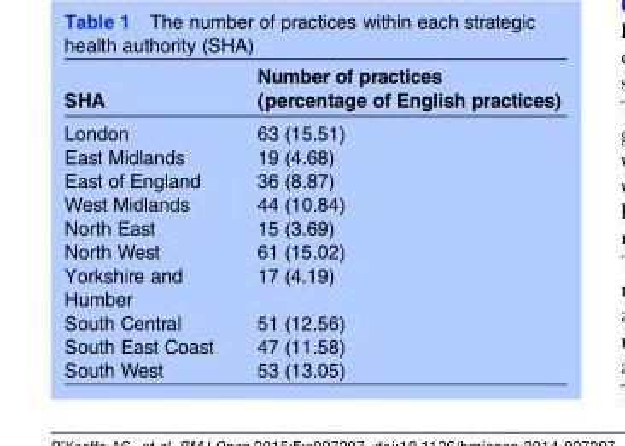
<table><thead><tr><td>SHA</td><td>Number of practices (percentage of English practices)</td></tr></thead><tbody><tr><td>London</td><td>63 (15.51)</td></tr><tr><td>East Midlands</td><td>19 (4.68)</td></tr><tr><td>East of England</td><td>36 (8.87)</td></tr><tr><td>West Midlands</td><td>44 (10.84)</td></tr><tr><td>North East</td><td>15 (3.69)</td></tr><tr><td>North West</td><td>61 (15.02)</td></tr><tr><td>Yorkshire and Humber</td><td>17 (4.19)</td></tr><tr><td>South Central</td><td>51 (12.56)</td></tr><tr><td>South East Coast</td><td>47 (11.58)</td></tr><tr><td>South West</td><td>53 (13.05)</td></tr></tbody></table>